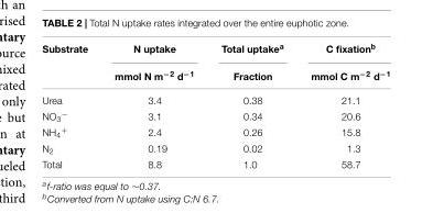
<table><thead><tr><td rowspan="2">Substrate</td><td rowspan="2">N uptake mmol N m<sup>−2</sup> d<sup>−1</sup></td><td rowspan="2">Total uptake<sup>a</sup> Fraction</td><td rowspan="2">C fixation<sup>b</sup> mmol C m<sup>−2</sup> d<sup>−1</sup></td></tr><tr></tr></thead><tbody><tr><td>Urea</td><td>3.4</td><td>0.38</td><td>21.1</td></tr><tr><td>NO<sub>3</sub><sup>−</sup></td><td>3.1</td><td>0.34</td><td>20.6</td></tr><tr><td>NH<sub>4</sub><sup>+</sup></td><td>2.4</td><td>0.26</td><td>15.8</td></tr><tr><td>N<sub>2</sub></td><td>0.19</td><td>0.02</td><td>1.3</td></tr><tr><td>Total</td><td>8.8</td><td>1.0</td><td>58.7</td></tr></tbody></table>